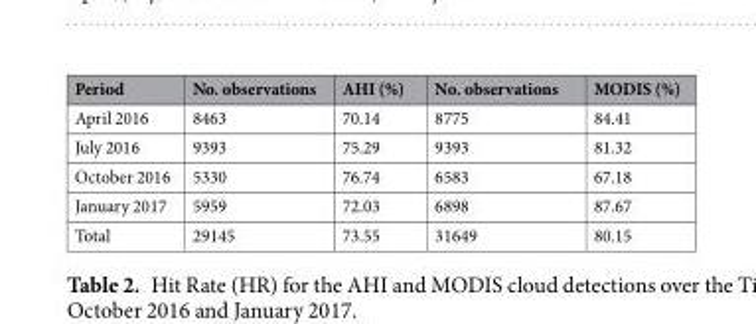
<table><thead><tr><td>Period</td><td>No. observations</td><td>AHI (%)</td><td>No. observations</td><td>MODIS (%)</td></tr></thead><tbody><tr><td>April 2016</td><td>8463</td><td>70.14</td><td>8775</td><td>84.41</td></tr><tr><td>July 2016</td><td>9393</td><td>75.29</td><td>9393</td><td>81.32</td></tr><tr><td>October 2016</td><td>5330</td><td>76.74</td><td>6583</td><td>67.18</td></tr><tr><td>January 2017</td><td>5959</td><td>72.03</td><td>6898</td><td>87.67</td></tr><tr><td>Total</td><td>29145</td><td>73.55</td><td>31649</td><td>80.15</td></tr></tbody></table>